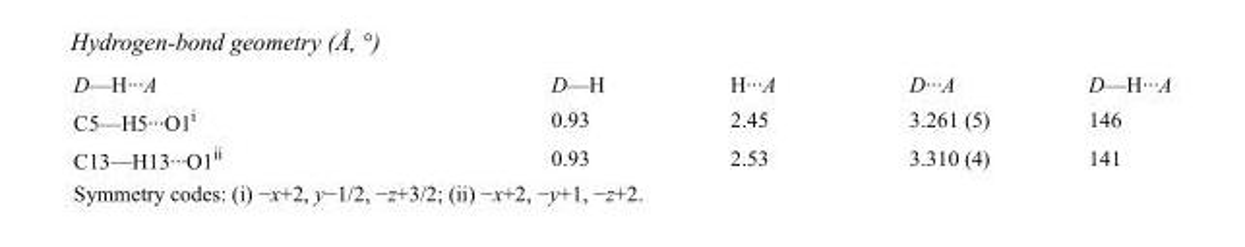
<table><tbody><tr><td>D—H···A</td><td>D—H</td><td>H···A</td><td>D···A</td><td>D—H···A</td></tr><tr><td>C5—H5···O1<sup>i</sup></td><td>0.93</td><td>2.45</td><td>3.261 (5)</td><td>146</td></tr><tr><td>C13—H13···O1<sup>ii</sup></td><td>0.93</td><td>2.53</td><td>3.310 (4)</td><td>141</td></tr></tbody></table>